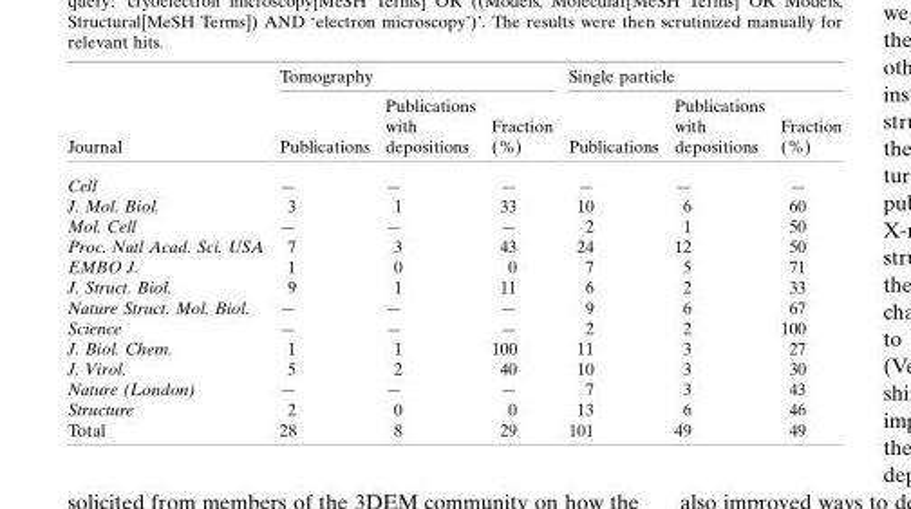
<table><thead><tr><td rowspan="2">Journal</td><td colspan="3">Tomography</td><td colspan="3">Single particle</td></tr><tr><td>Publications</td><td>Publications with depositions</td><td>Fraction (%)</td><td>Publications</td><td>Publications with depositions</td><td>Fraction (%)</td></tr></thead><tbody><tr><td colspan="7">Cell — — — — — —</td></tr><tr><td>J. Mol. Biol.</td><td>3</td><td>1</td><td>33</td><td>10</td><td>6</td><td>60</td></tr><tr><td>Mol. Cell</td><td>—</td><td>—</td><td>—</td><td>2</td><td>1</td><td>50</td></tr><tr><td>Proc. Natl Acad. Sci. USA</td><td>7</td><td>3</td><td>43</td><td>24</td><td>12</td><td>50</td></tr><tr><td>EMBO J.</td><td>1</td><td>0</td><td>0</td><td>7</td><td>5</td><td>71</td></tr><tr><td>J. Struct. Biol.</td><td>9</td><td>1</td><td>11</td><td>6</td><td>2</td><td>33</td></tr><tr><td>Nature Struct. Mol. Biol.</td><td>—</td><td>—</td><td>—</td><td>9</td><td>6</td><td>67</td></tr><tr><td>Science</td><td>—</td><td>—</td><td>—</td><td>2</td><td>2</td><td>100</td></tr><tr><td>J. Biol. Chem.</td><td>1</td><td>1</td><td>100</td><td>11</td><td>3</td><td>27</td></tr><tr><td>J. Virol.</td><td>5</td><td>2</td><td>40</td><td>10</td><td>3</td><td>30</td></tr><tr><td>Nature (London)</td><td>—</td><td>—</td><td>—</td><td>7</td><td>3</td><td>43</td></tr><tr><td>Structure</td><td>2</td><td>0</td><td>0</td><td>13</td><td>6</td><td>46</td></tr><tr><td>Total</td><td>28</td><td>8</td><td>29</td><td>101</td><td>49</td><td>49</td></tr></tbody></table>